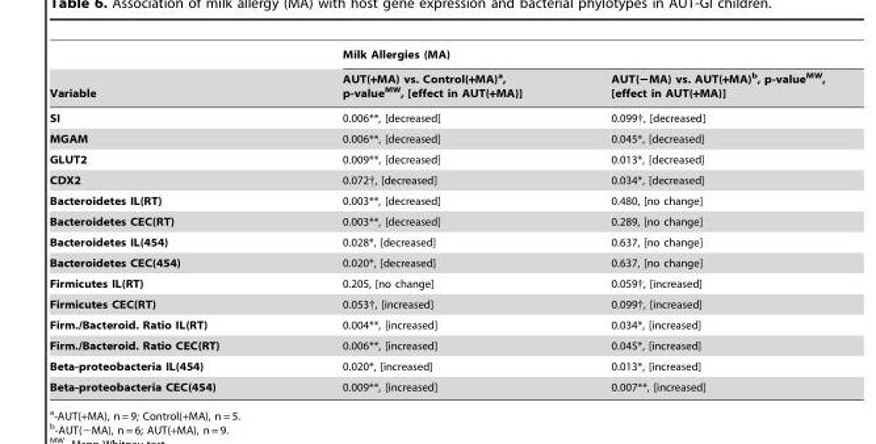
<table><thead><tr><td rowspan="2">Variable</td><td colspan="2">Milk Allergies (MA)</td></tr><tr><td>AUT(+MA) vs. Control(+MA)<sup>a</sup>, p-value<sup>MW</sup>, [effect in AUT(+MA)]</td><td>AUT(−MA) vs. AUT(+MA)<sup>b</sup>, p-value<sup>MW</sup>, [effect in AUT(+MA)]</td></tr></thead><tbody><tr><td>SI</td><td>0.006**, [decreased]</td><td>0.099†, [decreased]</td></tr><tr><td>MGAM</td><td>0.006**, [decreased]</td><td>0.045*, [decreased]</td></tr><tr><td>GLUT2</td><td>0.009**, [decreased]</td><td>0.013*, [decreased]</td></tr><tr><td>CDX2</td><td>0.072†, [decreased]</td><td>0.034*, [decreased]</td></tr><tr><td>Bacteroidetes IL(RT)</td><td>0.003**, [decreased]</td><td>0.480, [no change]</td></tr><tr><td>Bacteroidetes CEC(RT)</td><td>0.003**, [decreased]</td><td>0.289, [no change]</td></tr><tr><td>Bacteroidetes IL(454)</td><td>0.028*, [decreased]</td><td>0.637, [no change]</td></tr><tr><td>Bacteroidetes CEC(454)</td><td>0.020*, [decreased]</td><td>0.637, [no change]</td></tr><tr><td>Firmicutes IL(RT)</td><td>0.205, [no change]</td><td>0.059†, [increased]</td></tr><tr><td>Firmicutes CEC(RT)</td><td>0.053†, [increased]</td><td>0.099†, [increased]</td></tr><tr><td>Firm./Bacteroid. Ratio IL(RT)</td><td>0.004**, [increased]</td><td>0.034*, [increased]</td></tr><tr><td>Firm./Bacteroid. Ratio CEC(RT)</td><td>0.006**, [increased]</td><td>0.045*, [increased]</td></tr><tr><td>Beta-proteobacteria IL(454)</td><td>0.020*, [increased]</td><td>0.013*, [increased]</td></tr><tr><td>Beta-proteobacteria CEC(454)</td><td>0.009**, [increased]</td><td>0.007**, [increased]</td></tr></tbody></table>